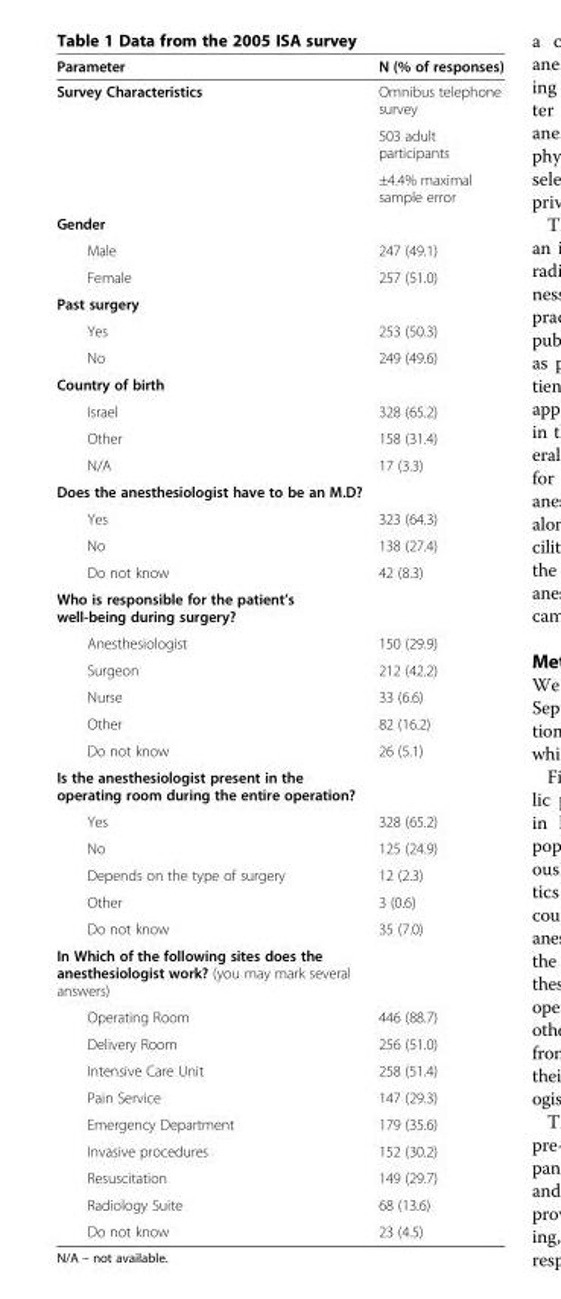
<table><thead><tr><td>Parameter</td><td>N (% of responses)</td></tr></thead><tbody><tr><td rowspan="3">Survey Characteristics</td><td>Omnibus telephone survey</td></tr><tr><td>503 adult participants</td></tr><tr><td>±4.4% maximal sample error</td></tr><tr><td colspan="2">Gender</td></tr><tr><td>Male</td><td>247 (49.1)</td></tr><tr><td>Female</td><td>257 (51.0)</td></tr><tr><td colspan="2">Past surgery</td></tr><tr><td>Yes</td><td>253 (50.3)</td></tr><tr><td>No</td><td>249 (49.6)</td></tr><tr><td colspan="2">Country of birth</td></tr><tr><td>Israel</td><td>328 (65.2)</td></tr><tr><td>Other</td><td>158 (31.4)</td></tr><tr><td>N/A</td><td>17 (3.3)</td></tr><tr><td colspan="2">Does the anesthesiologist have to be an M.D?</td></tr><tr><td>Yes</td><td>323 (64.3)</td></tr><tr><td>No</td><td>138 (27.4)</td></tr><tr><td>Do not know</td><td>42 (8.3)</td></tr><tr><td colspan="2">Who is responsible for the patient’s well-being during surgery?</td></tr><tr><td>Anesthesiologist</td><td>150 (29.9)</td></tr><tr><td>Surgeon</td><td>212 (42.2)</td></tr><tr><td>Nurse</td><td>33 (6.6)</td></tr><tr><td>Other</td><td>82 (16.2)</td></tr><tr><td>Do not know</td><td>26 (5.1)</td></tr><tr><td colspan="2">Is the anesthesiologist present in the operating room during the entire operation?</td></tr><tr><td>Yes</td><td>328 (65.2)</td></tr><tr><td>No</td><td>125 (24.9)</td></tr><tr><td>Depends on the type of surgery</td><td>12 (2.3)</td></tr><tr><td>Other</td><td>3 (0.6)</td></tr><tr><td>Do not know</td><td>35 (7.0)</td></tr><tr><td colspan="2">In Which of the following sites does the anesthesiologist work? (you may mark several answers)</td></tr><tr><td>Operating Room</td><td>446 (88.7)</td></tr><tr><td>Delivery Room</td><td>256 (51.0)</td></tr><tr><td>Intensive Care Unit</td><td>258 (51.4)</td></tr><tr><td>Pain Service</td><td>147 (29.3)</td></tr><tr><td>Emergency Department</td><td>179 (35.6)</td></tr><tr><td>Invasive procedures</td><td>152 (30.2)</td></tr><tr><td>Resuscitation</td><td>149 (29.7)</td></tr><tr><td>Radiology Suite</td><td>68 (13.6)</td></tr><tr><td>Do not know</td><td>23 (4.5)</td></tr></tbody></table>